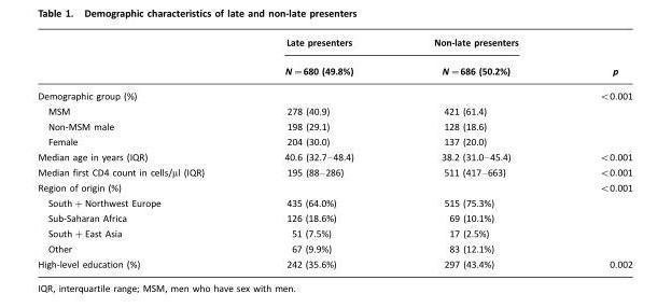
<table><thead><tr><td rowspan="2"></td><td rowspan="2">Late presenters N=680 (49.8%)</td><td rowspan="2">Non-late presenters N=686 (50.2%)</td><td rowspan="2">p</td></tr><tr></tr></thead><tbody><tr><td>Demographic group (%)</td><td></td><td></td><td>&lt;0.001</td></tr><tr><td>MSM</td><td>278 (40.9)</td><td>421 (61.4)</td><td></td></tr><tr><td>Non-MSM male</td><td>198 (29.1)</td><td>128 (18.6)</td><td></td></tr><tr><td>Female</td><td>204 (30.0)</td><td>137 (20.0)</td><td></td></tr><tr><td>Median age in years (IQR)</td><td>40.6 (32.7–48.4)</td><td>38.2 (31.0–45.4)</td><td>&lt;0.001</td></tr><tr><td>Median first CD4 count in cells/µl (IQR)</td><td>195 (88–286)</td><td>511 (417–663)</td><td>&lt;0.001</td></tr><tr><td>Region of origin (%)</td><td></td><td></td><td>&lt;0.001</td></tr><tr><td>South+Northwest Europe</td><td>435 (64.0%)</td><td>515 (75.3%)</td><td></td></tr><tr><td>Sub-Saharan Africa</td><td>126 (18.6%)</td><td>69 (10.1%)</td><td></td></tr><tr><td>South+East Asia</td><td>51 (7.5%)</td><td>17 (2.5%)</td><td></td></tr><tr><td>Other</td><td>67 (9.9%)</td><td>83 (12.1%)</td><td></td></tr><tr><td>High-level education (%)</td><td>242 (35.6%)</td><td>297 (43.4%)</td><td>0.002</td></tr></tbody></table>